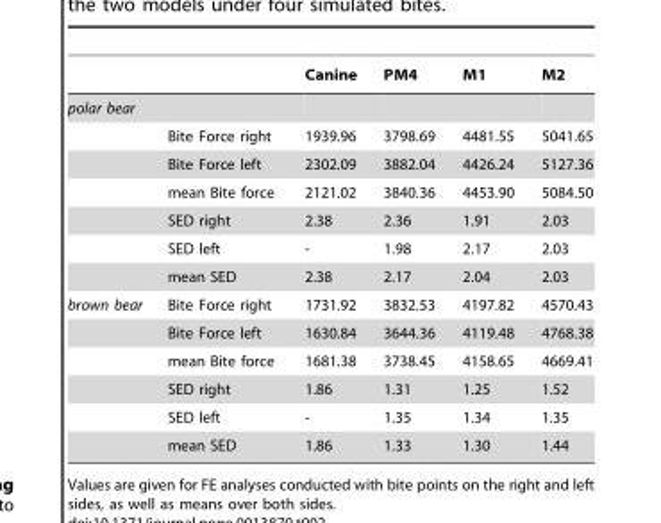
<table><thead><tr><td></td><td></td><td>Canine</td><td>PM4</td><td>M1</td><td>M2</td></tr></thead><tbody><tr><td colspan="6">polar bear</td></tr><tr><td></td><td>Bite Force right</td><td>1939.96</td><td>3798.69</td><td>4481.55</td><td>5041.65</td></tr><tr><td></td><td>Bite Force left</td><td>2302.09</td><td>3882.04</td><td>4426.24</td><td>5127.36</td></tr><tr><td></td><td>mean Bite force</td><td>2121.02</td><td>3840.36</td><td>4453.90</td><td>5084.50</td></tr><tr><td></td><td>SED right</td><td>2.38</td><td>2.36</td><td>1.91</td><td>2.03</td></tr><tr><td></td><td>SED left</td><td>-</td><td>1.98</td><td>2.17</td><td>2.03</td></tr><tr><td></td><td>mean SED</td><td>2.38</td><td>2.17</td><td>2.04</td><td>2.03</td></tr><tr><td rowspan="6">brown bear</td><td>Bite Force right</td><td>1731.92</td><td>3832.53</td><td>4197.82</td><td>4570.43</td></tr><tr><td>Bite Force left</td><td>1630.84</td><td>3644.36</td><td>4119.48</td><td>4768.38</td></tr><tr><td>mean Bite force</td><td>1681.38</td><td>3738.45</td><td>4158.65</td><td>4669.41</td></tr><tr><td>SED right</td><td>1.86</td><td>1.31</td><td>1.25</td><td>1.52</td></tr><tr><td>SED left</td><td>-</td><td>1.35</td><td>1.34</td><td>1.35</td></tr><tr><td>mean SED</td><td>1.86</td><td>1.33</td><td>1.30</td><td>1.44</td></tr></tbody></table>